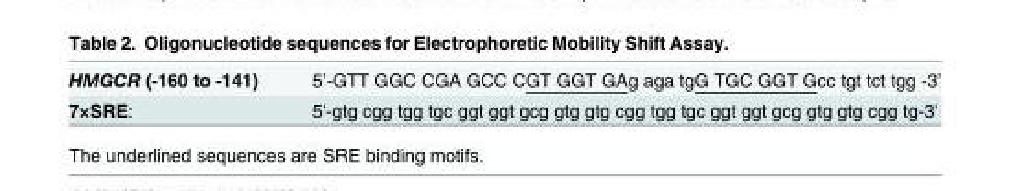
<table><tbody><tr><td>HMGCR (-160 to -141)</td><td>5’-GTT GGC CGA GCC CGT GGT GAg aga tgG TGC GGT Gcc tgt tct tgg -3’</td></tr><tr><td>7×SRE:</td><td>5&#x27;-gtg cgg tgg tgc ggt ggt gcg gtg gtg cgg tgg tgc ggt ggt gcg gtg gtg cgg tg-3&#x27;</td></tr></tbody></table>